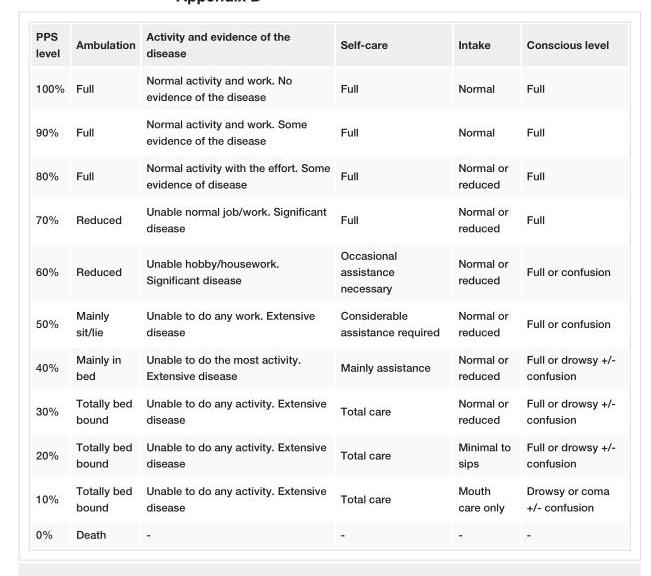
<table><tbody><tr><td>PPS level</td><td>Ambulation</td><td>Activity and evidence of the disease</td><td>Self-care</td><td>Intake</td><td>Conscious level</td></tr><tr><td>100%</td><td>Full</td><td>Normal activity and work. No evidence of the disease</td><td>Full</td><td>Normal</td><td>Full</td></tr><tr><td>90%</td><td>Full</td><td>Normal activity and work. Some evidence of the disease</td><td>Full</td><td>Normal</td><td>Full</td></tr><tr><td>80%</td><td>Full</td><td>Normal activity with the effort. Some evidence of disease</td><td>Full</td><td>Normal or reduced</td><td>Full</td></tr><tr><td>70%</td><td>Reduced</td><td>Unable normal job/work. Significant disease</td><td>Full</td><td>Normal or reduced</td><td>Full</td></tr><tr><td>60%</td><td>Reduced</td><td>Unable hobby/housework. Significant disease</td><td>Occasional assistance necessary</td><td>Normal or reduced</td><td>Full or confusion</td></tr><tr><td>50%</td><td>Mainly sit/lie</td><td>Unable to do any work. Extensive disease</td><td>Considerable assistance required</td><td>Normal or reduced</td><td>Full or confusion</td></tr><tr><td>40%</td><td>Mainly in bed</td><td>Unable to do the most activity. Extensive disease</td><td>Mainly assistance</td><td>Normal or reduced</td><td>Full or drowsy +/- confusion</td></tr><tr><td>30%</td><td>Totally bed bound</td><td>Unable to do any activity. Extensive disease</td><td>Total care</td><td>Normal or reduced</td><td>Full or drowsy +/- confusion</td></tr><tr><td>20%</td><td>Totally bed bound</td><td>Unable to do any activity. Extensive disease</td><td>Total care</td><td>Minimal to sips</td><td>Full or drowsy +/- confusion</td></tr><tr><td>10%</td><td>Totally bed bound</td><td>Unable to do any activity. Extensive disease</td><td>Total care</td><td>Mouth care only</td><td>Drowsy or coma +/- confusion</td></tr><tr><td>0%</td><td>Death</td><td>-</td><td>-</td><td>-</td><td>-</td></tr></tbody></table>